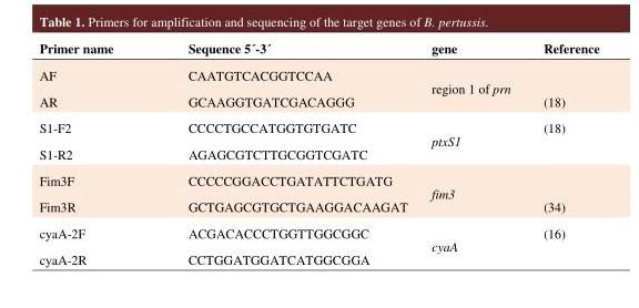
<table><thead><tr><td>Primer name</td><td>Sequence 5´-3´</td><td>gene</td><td>Reference</td></tr></thead><tbody><tr><td>AF</td><td>CAATGTCACGGTCCAA</td><td rowspan="2">region 1 of prn</td><td></td></tr><tr><td>AR</td><td>GCAAGGTGATCGACAGGG</td><td>(18)</td></tr><tr><td>S1-F2</td><td>CCCCTGCCATGGTGTGATC</td><td rowspan="2">ptxS1</td><td>(18)</td></tr><tr><td>S1-R2</td><td>AGAGCGTCTTGCGGTCGATC</td><td></td></tr><tr><td>Fim3F</td><td>CCCCCGGACCTGATATTCTGATG</td><td rowspan="2">fim3</td><td></td></tr><tr><td>Fim3R</td><td>GCTGAGCGTGCTGAAGGACAAGAT</td><td>(34)</td></tr><tr><td>cyaA-2F</td><td>ACGACACCCTGGTTGGCGGC</td><td rowspan="2">cyaA</td><td>(16)</td></tr><tr><td>cyaA-2R</td><td>CCTGGATGGATCATGGCGGA</td><td></td></tr></tbody></table>